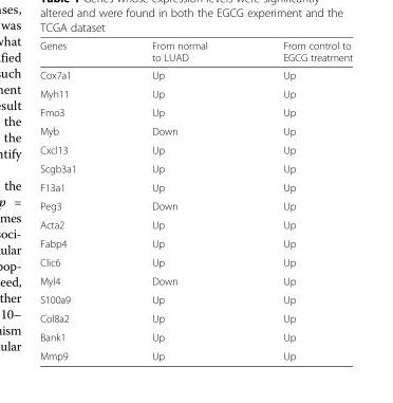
<table><thead><tr><td>Genes</td><td>From normal to LUAD</td><td>From control to EGCG treatment</td></tr></thead><tbody><tr><td>Cox7a1</td><td>Up</td><td>Up</td></tr><tr><td>Myh11</td><td>Up</td><td>Up</td></tr><tr><td>Fmo3</td><td>Up</td><td>Up</td></tr><tr><td>Myb</td><td>Down</td><td>Up</td></tr><tr><td>Cxcl13</td><td>Up</td><td>Up</td></tr><tr><td>Scgb3a1</td><td>Up</td><td>Up</td></tr><tr><td>F13a1</td><td>Up</td><td>Up</td></tr><tr><td>Peg3</td><td>Down</td><td>Up</td></tr><tr><td>Acta2</td><td>Up</td><td>Up</td></tr><tr><td>Fabp4</td><td>Up</td><td>Up</td></tr><tr><td>Clic6</td><td>Up</td><td>Up</td></tr><tr><td>Myl4</td><td>Down</td><td>Up</td></tr><tr><td>S100a9</td><td>Up</td><td>Up</td></tr><tr><td>Col8a2</td><td>Up</td><td>Up</td></tr><tr><td>Bank1</td><td>Up</td><td>Up</td></tr><tr><td>Mmp9</td><td>Up</td><td>Up</td></tr></tbody></table>